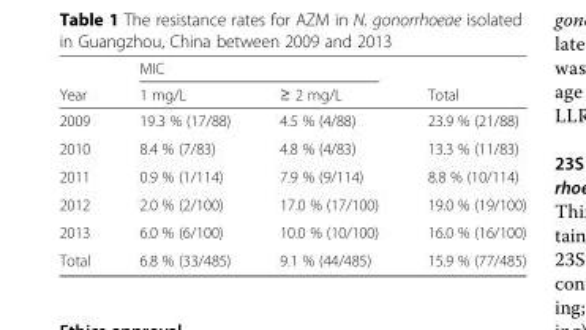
<table><thead><tr><td rowspan="2">Year</td><td colspan="2">MIC</td><td rowspan="2">Total</td></tr><tr><td>1 mg/L</td><td>≥ 2 mg/L</td></tr></thead><tbody><tr><td>2009</td><td>19.3 % (17/88)</td><td>4.5 % (4/88)</td><td>23.9 % (21/88)</td></tr><tr><td>2010</td><td>8.4 % (7/83)</td><td>4.8 % (4/83)</td><td>13.3 % (11/83)</td></tr><tr><td>2011</td><td>0.9 % (1/114)</td><td>7.9 % (9/114)</td><td>8.8 % (10/114)</td></tr><tr><td>2012</td><td>2.0 % (2/100)</td><td>17.0 % (17/100)</td><td>19.0 % (19/100)</td></tr><tr><td>2013</td><td>6.0 % (6/100)</td><td>10.0 % (10/100)</td><td>16.0 % (16/100)</td></tr><tr><td>Total</td><td>6.8 % (33/485)</td><td>9.1 % (44/485)</td><td>15.9 % (77/485)</td></tr></tbody></table>